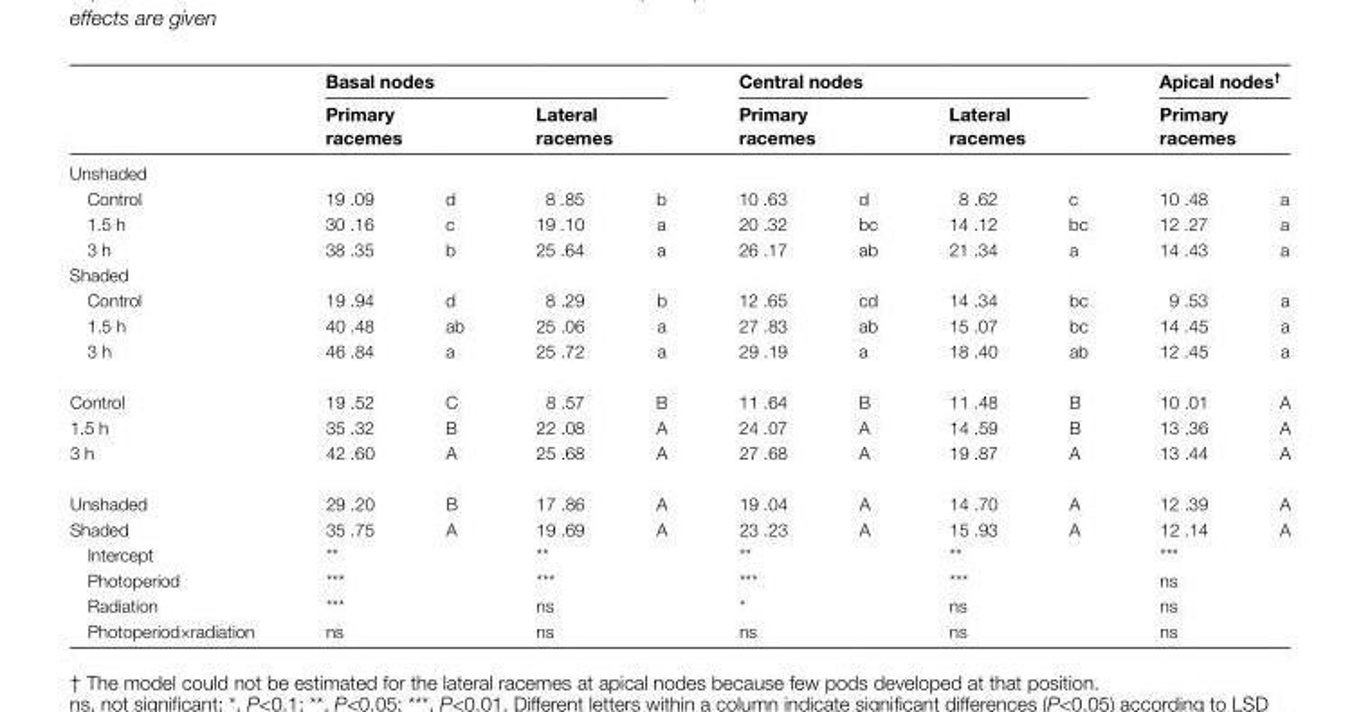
<table><thead><tr><td rowspan="2"></td><td colspan="4">Basal nodes</td><td colspan="4">Central nodes</td><td rowspan="2" colspan="2">Apical nodes<sup>†</sup> Primary racemes</td></tr><tr><td colspan="2">Primary racemes</td><td colspan="2">Lateral racemes</td><td colspan="2">Primary racemes</td><td colspan="2">Lateral racemes</td></tr><tr><td colspan="11">Unshaded</td></tr><tr><td>Control</td><td>19 .09</td><td>d</td><td>8 .85</td><td>b</td><td>10 .63</td><td>d</td><td>8 .62</td><td>c</td><td>10 .48</td><td>a</td></tr></thead><tbody><tr><td>1.5 h</td><td>30 .16</td><td>c</td><td>19 .10</td><td>a</td><td>20 .32</td><td>bc</td><td>14 .12</td><td>bc</td><td>12 .27</td><td>a</td></tr><tr><td>3 h</td><td>38 .35</td><td>b</td><td>25 .64</td><td>a</td><td>26 .17</td><td>ab</td><td>21 .34</td><td>a</td><td>14 .43</td><td>a</td></tr><tr><td colspan="11">Shaded</td></tr><tr><td>Control</td><td>19 .94</td><td>d</td><td>8 .29</td><td>b</td><td>12 .65</td><td>cd</td><td>14 .34</td><td>bc</td><td>9 .53</td><td>a</td></tr><tr><td>1.5 h</td><td>40 .48</td><td>ab</td><td>25 .06</td><td>a</td><td>27 .83</td><td>ab</td><td>15 .07</td><td>bc</td><td>14 .45</td><td>a</td></tr><tr><td>3 h</td><td>46 .84</td><td>a</td><td>25 .72</td><td>a</td><td>29 .19</td><td>a</td><td>18 .40</td><td>ab</td><td>12 .45</td><td>a</td></tr><tr><td>Control</td><td>19 .52</td><td>C</td><td>8 .57</td><td>B</td><td>11 .64</td><td>B</td><td>11 .48</td><td>B</td><td>10 .01</td><td>A</td></tr><tr><td>1.5 h</td><td>35 .32</td><td>B</td><td>22 .08</td><td>A</td><td>24 .07</td><td>A</td><td>14 .59</td><td>B</td><td>13 .36</td><td>A</td></tr><tr><td>3 h</td><td>42 .60</td><td>A</td><td>25 .68</td><td>A</td><td>27 .68</td><td>A</td><td>19 .87</td><td>A</td><td>13 .44</td><td>A</td></tr><tr><td>Unshaded</td><td>29 .20</td><td>B</td><td>17 .86</td><td>A</td><td>19 .04</td><td>A</td><td>14 .70</td><td>A</td><td>12 .39</td><td>A</td></tr><tr><td>Shaded</td><td>35 .75</td><td>A</td><td>19 .69</td><td>A</td><td>23 .23</td><td>A</td><td>15 .93</td><td>A</td><td>12 .14</td><td>A</td></tr><tr><td>Intercept</td><td colspan="2">**</td><td colspan="2">**</td><td colspan="2">**</td><td colspan="2">**</td><td colspan="2">***</td></tr><tr><td>Photoperiod</td><td colspan="2">***</td><td colspan="2">***</td><td colspan="2">***</td><td colspan="2">***</td><td colspan="2">ns</td></tr><tr><td>Radiation</td><td colspan="2">***</td><td colspan="2">ns</td><td colspan="2">*</td><td colspan="2">ns</td><td colspan="2">ns</td></tr><tr><td>Photoperiod×radiation</td><td colspan="2">ns</td><td colspan="2">ns</td><td colspan="2">ns</td><td colspan="2">ns</td><td colspan="2">ns</td></tr></tbody></table>